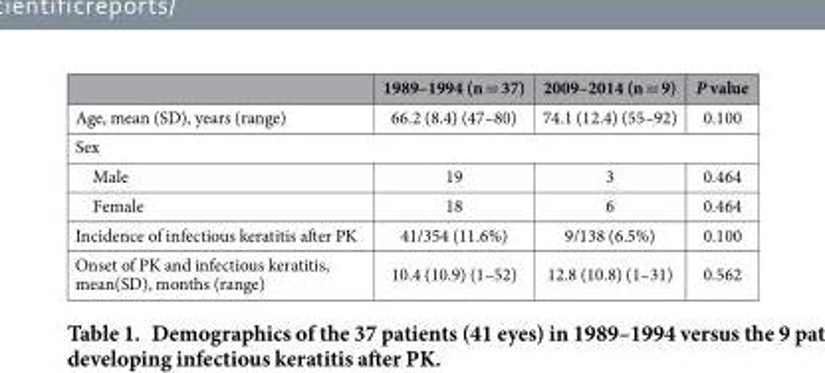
<table><thead><tr><td></td><td>1989–1994 (n = 37)</td><td>2009–2014 (n = 9)</td><td>P value</td></tr></thead><tbody><tr><td>Age, mean (SD), years (range)</td><td>66.2 (8.4) (47–80)</td><td>74.1 (12.4) (55–92)</td><td>0.100</td></tr><tr><td colspan="4">Sex</td></tr><tr><td>Male</td><td>19</td><td>3</td><td>0.464</td></tr><tr><td>Female</td><td>18</td><td>6</td><td>0.464</td></tr><tr><td>Incidence of infectious keratitis after PK</td><td>41/354 (11.6%)</td><td>9/138 (6.5%)</td><td>0.100</td></tr><tr><td>Onset of PK and infectious keratitis, mean(SD), months (range)</td><td>10.4 (10.9) (1–52)</td><td>12.8 (10.8) (1–31)</td><td>0.562</td></tr></tbody></table>